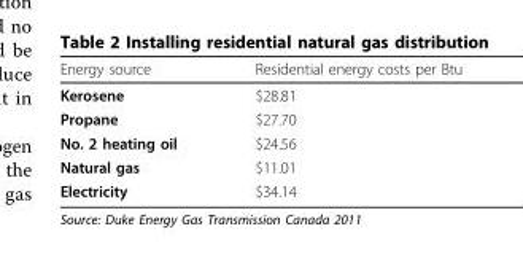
<table><thead><tr><td>Energy source</td><td>Residential energy costs per Btu</td></tr></thead><tbody><tr><td>Kerosene</td><td>$28.81</td></tr><tr><td>Propane</td><td>$27.70</td></tr><tr><td>No. 2 heating oil</td><td>$24.56</td></tr><tr><td>Natural gas</td><td>$11.01</td></tr><tr><td>Electricity</td><td>$34.14</td></tr></tbody></table>